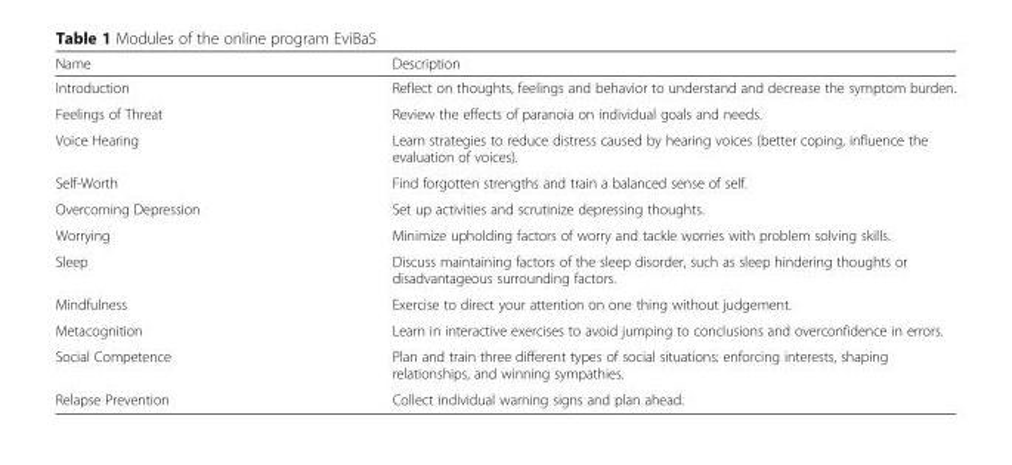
<table><thead><tr><td>Name</td><td>Description</td></tr></thead><tbody><tr><td>Introduction</td><td>Reflect on thoughts, feelings and behavior to understand and decrease the symptom burden.</td></tr><tr><td>Feelings of Threat</td><td>Review the effects of paranoia on individual goals and needs.</td></tr><tr><td>Voice Hearing</td><td>Learn strategies to reduce distress caused by hearing voices (better coping, influence the evaluation of voices).</td></tr><tr><td>Self-Worth</td><td>Find forgotten strengths and train a balanced sense of self.</td></tr><tr><td>Overcoming Depression</td><td>Set up activities and scrutinize depressing thoughts.</td></tr><tr><td>Worrying</td><td>Minimize upholding factors of worry and tackle worries with problem solving skills.</td></tr><tr><td>Sleep</td><td>Discuss maintaining factors of the sleep disorder, such as sleep hindering thoughts or disadvantageous surrounding factors.</td></tr><tr><td>Mindfulness</td><td>Exercise to direct your attention on one thing without judgement.</td></tr><tr><td>Metacognition</td><td>Learn in interactive exercises to avoid jumping to conclusions and overconfidence in errors.</td></tr><tr><td>Social Competence</td><td>Plan and train three different types of social situations: enforcing interests, shaping relationships, and winning sympathies.</td></tr><tr><td>Relapse Prevention</td><td>Collect individual warning signs and plan ahead.</td></tr></tbody></table>